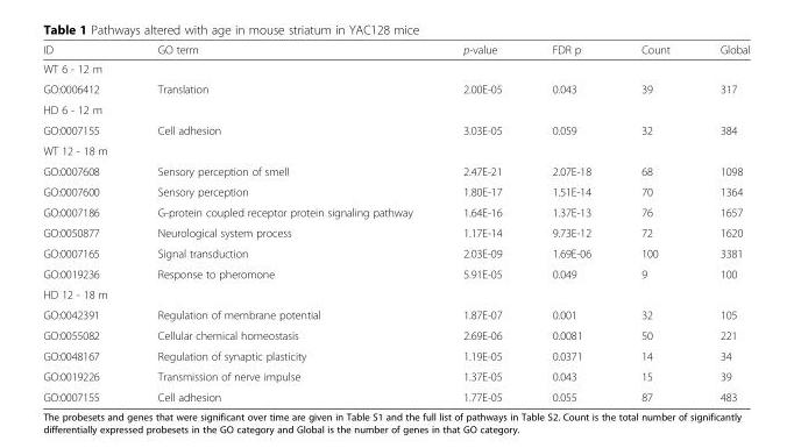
<table><thead><tr><td>ID</td><td>GO term</td><td>p-value</td><td>FDR p</td><td>Count</td><td>Global</td></tr></thead><tbody><tr><td colspan="6">WT 6 - 12 m</td></tr><tr><td>GO:0006412</td><td>Translation</td><td>2.00E-05</td><td>0.043</td><td>39</td><td>317</td></tr><tr><td colspan="6">HD 6 - 12 m</td></tr><tr><td>GO:0007155</td><td>Cell adhesion</td><td>3.03E-05</td><td>0.059</td><td>32</td><td>384</td></tr><tr><td colspan="6">WT 12 - 18 m</td></tr><tr><td>GO:0007608</td><td>Sensory perception of smell</td><td>2.47E-21</td><td>2.07E-18</td><td>68</td><td>1098</td></tr><tr><td>GO:0007600</td><td>Sensory perception</td><td>1.80E-17</td><td>1.51E-14</td><td>70</td><td>1364</td></tr><tr><td>GO:0007186</td><td>G-protein coupled receptor protein signaling pathway</td><td>1.64E-16</td><td>1.37E-13</td><td>76</td><td>1657</td></tr><tr><td>GO:0050877</td><td>Neurological system process</td><td>1.17E-14</td><td>9.73E-12</td><td>72</td><td>1620</td></tr><tr><td>GO:0007165</td><td>Signal transduction</td><td>2.03E-09</td><td>1.69E-06</td><td>100</td><td>3381</td></tr><tr><td>GO:0019236</td><td>Response to pheromone</td><td>5.91E-05</td><td>0.049</td><td>9</td><td>100</td></tr><tr><td colspan="6">HD 12 - 18 m</td></tr><tr><td>GO:0042391</td><td>Regulation of membrane potential</td><td>1.87E-07</td><td>0.001</td><td>32</td><td>105</td></tr><tr><td>GO:0055082</td><td>Cellular chemical homeostasis</td><td>2.69E-06</td><td>0.0081</td><td>50</td><td>221</td></tr><tr><td>GO:0048167</td><td>Regulation of synaptic plasticity</td><td>1.19E-05</td><td>0.0371</td><td>14</td><td>34</td></tr><tr><td>GO:0019226</td><td>Transmission of nerve impulse</td><td>1.37E-05</td><td>0.043</td><td>15</td><td>39</td></tr><tr><td>GO:0007155</td><td>Cell adhesion</td><td>1.77E-05</td><td>0.055</td><td>87</td><td>483</td></tr></tbody></table>